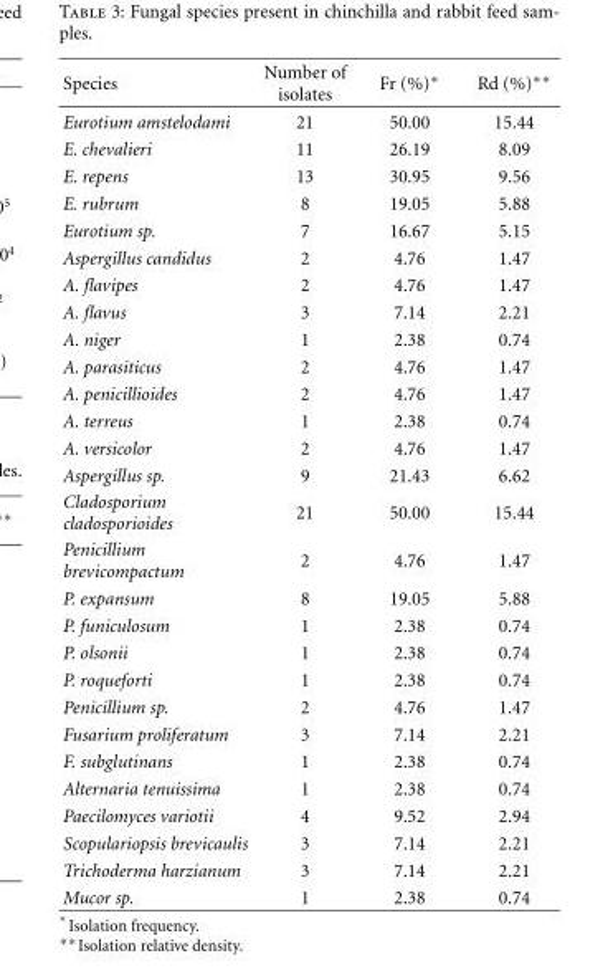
<table><thead><tr><td>Species</td><td>Number of isolates</td><td>Fr (%)∗</td><td>Rd (%)∗∗</td></tr></thead><tbody><tr><td>Eurotium amstelodami</td><td>21</td><td>50.00</td><td>15.44</td></tr><tr><td>E. chevalieri</td><td>11</td><td>26.19</td><td>8.09</td></tr><tr><td>E. repens</td><td>13</td><td>30.95</td><td>9.56</td></tr><tr><td>E. rubrum</td><td>8</td><td>19.05</td><td>5.88</td></tr><tr><td>Eurotium sp.</td><td>7</td><td>16.67</td><td>5.15</td></tr><tr><td>Aspergillus candidus</td><td>2</td><td>4.76</td><td>1.47</td></tr><tr><td>A. flavipes</td><td>2</td><td>4.76</td><td>1.47</td></tr><tr><td>A. flavus</td><td>3</td><td>7.14</td><td>2.21</td></tr><tr><td>A. niger</td><td>1</td><td>2.38</td><td>0.74</td></tr><tr><td>A. parasiticus</td><td>2</td><td>4.76</td><td>1.47</td></tr><tr><td>A. penicillioides</td><td>2</td><td>4.76</td><td>1.47</td></tr><tr><td>A. terreus</td><td>1</td><td>2.38</td><td>0.74</td></tr><tr><td>A. versicolor</td><td>2</td><td>4.76</td><td>1.47</td></tr><tr><td>Aspergillus sp.</td><td>9</td><td>21.43</td><td>6.62</td></tr><tr><td>Cladosporium cladosporioides</td><td>21</td><td>50.00</td><td>15.44</td></tr><tr><td>Penicillium brevicompactum</td><td>2</td><td>4.76</td><td>1.47</td></tr><tr><td>P. expansum</td><td>8</td><td>19.05</td><td>5.88</td></tr><tr><td>P. funiculosum</td><td>1</td><td>2.38</td><td>0.74</td></tr><tr><td>P. olsonii</td><td>1</td><td>2.38</td><td>0.74</td></tr><tr><td>P. roqueforti</td><td>1</td><td>2.38</td><td>0.74</td></tr><tr><td>Penicillium sp.</td><td>2</td><td>4.76</td><td>1.47</td></tr><tr><td>Fusarium proliferatum</td><td>3</td><td>7.14</td><td>2.21</td></tr><tr><td>F. subglutinans</td><td>1</td><td>2.38</td><td>0.74</td></tr><tr><td>Alternaria tenuissima</td><td>1</td><td>2.38</td><td>0.74</td></tr><tr><td>Paecilomyces variotii</td><td>4</td><td>9.52</td><td>2.94</td></tr><tr><td>Scopulariopsis brevicaulis</td><td>3</td><td>7.14</td><td>2.21</td></tr><tr><td>Trichoderma harzianum</td><td>3</td><td>7.14</td><td>2.21</td></tr><tr><td>Mucor sp.</td><td>1</td><td>2.38</td><td>0.74</td></tr></tbody></table>